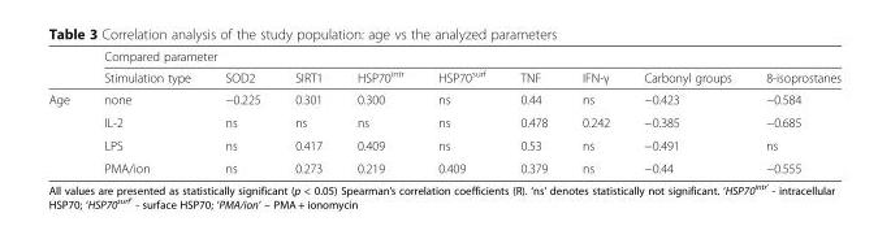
<table><thead><tr><td rowspan="2"></td><td colspan="9">Compared parameter</td></tr><tr><td>Stimulation type</td><td>SOD2</td><td>SIRT1</td><td>HSP70<sup>intr</sup></td><td>HSP70<sup>surf</sup></td><td>TNF</td><td>IFN-γ</td><td>Carbonyl groups</td><td>8-isoprostanes</td></tr></thead><tbody><tr><td rowspan="4">Age</td><td>none</td><td>−0.225</td><td>0.301</td><td>0.300</td><td>ns</td><td>0.44</td><td>ns</td><td>−0.423</td><td>−0.584</td></tr><tr><td>IL-2</td><td>ns</td><td>ns</td><td>ns</td><td>ns</td><td>0.478</td><td>0.242</td><td>−0.385</td><td>−0.685</td></tr><tr><td>LPS</td><td>ns</td><td>0.417</td><td>0.409</td><td>ns</td><td>0.53</td><td>ns</td><td>−0.491</td><td>ns</td></tr><tr><td>PMA/ion</td><td>ns</td><td>0.273</td><td>0.219</td><td>0.409</td><td>0.379</td><td>ns</td><td>−0.44</td><td>−0.555</td></tr></tbody></table>